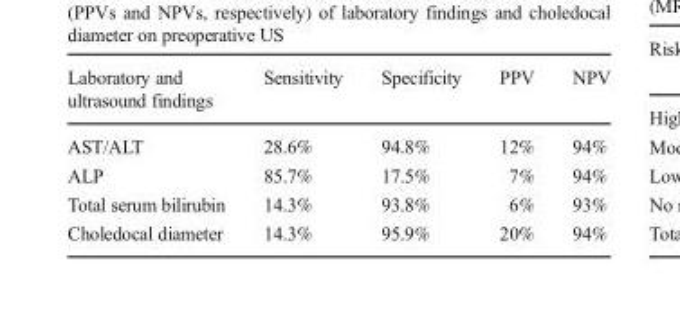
<table><thead><tr><td>Laboratory and ultrasound findings</td><td>Sensitivity</td><td>Specificity</td><td>PPV</td><td>NPV</td></tr></thead><tbody><tr><td>AST/ALT</td><td>28.6%</td><td>94.8%</td><td>12%</td><td>94%</td></tr><tr><td>ALP</td><td>85.7%</td><td>17.5%</td><td>7%</td><td>94%</td></tr><tr><td>Total serum bilirubin</td><td>14.3%</td><td>93.8%</td><td>6%</td><td>93%</td></tr><tr><td>Choledocal diameter</td><td>14.3%</td><td>95.9%</td><td>20%</td><td>94%</td></tr></tbody></table>